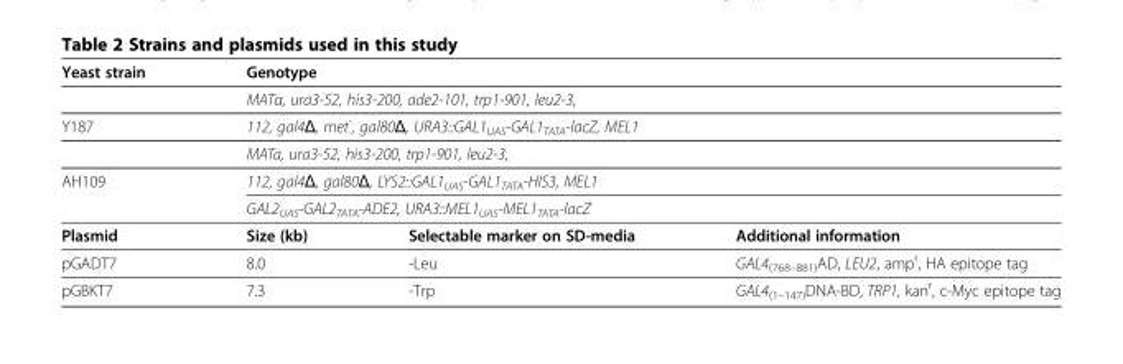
<table><thead><tr><td>Yeast strain</td><td colspan="3">Genotype</td></tr></thead><tbody><tr><td></td><td colspan="3">MATα, ura3-52, his3-200, ade2-101, trp1-901, leu2-3,</td></tr><tr><td rowspan="2">Y187</td><td colspan="3">112, gal4Δ, met<sup>-</sup>, gal80Δ, URA3::GAL1<sub>UAS</sub>-GAL1<sub>TATA</sub>-lacZ, MEL1</td></tr><tr><td colspan="3">MATa, ura3-52, his3-200, trp1-901, leu2-3,</td></tr><tr><td rowspan="2">AH109</td><td colspan="3">112, gal4Δ, gal80Δ, LYS2::GAL1<sub>UAS</sub>-GAL1<sub>TATA</sub>-HIS3, MEL1</td></tr><tr><td colspan="3">GAL2<sub>UAS</sub>-GAL2<sub>TATA</sub>-ADE2, URA3::MEL1<sub>UAS</sub>-MEL1<sub>TATA</sub>-lacZ</td></tr><tr><td>Plasmid</td><td>Size (kb)</td><td>Selectable marker on SD-media</td><td>Additional information</td></tr><tr><td>pGADT7</td><td>8.0</td><td>-Leu</td><td>GAL4<sub>(768–881)</sub>AD, LEU2, amp<sup>r</sup>, HA epitope tag</td></tr><tr><td>pGBKT7</td><td>7.3</td><td>-Trp</td><td>GAL4<sub>(1–147)</sub>DNA-BD, TRP1, kan<sup>r</sup>, c-Myc epitope tag</td></tr></tbody></table>